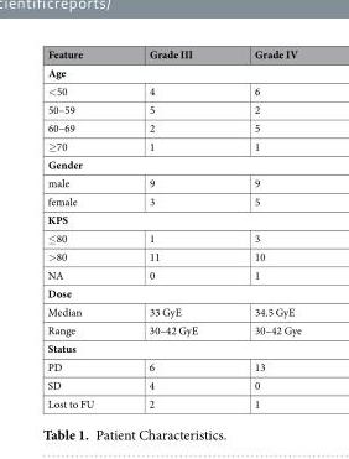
<table><thead><tr><td>Feature</td><td>Grade III</td><td>Grade IV</td></tr></thead><tbody><tr><td colspan="3">Age</td></tr><tr><td>&lt;50</td><td>4</td><td>6</td></tr><tr><td>50–59</td><td>5</td><td>2</td></tr><tr><td>60–69</td><td>2</td><td>5</td></tr><tr><td>≥70</td><td>1</td><td>1</td></tr><tr><td colspan="3">Gender</td></tr><tr><td>male</td><td>9</td><td>9</td></tr><tr><td>female</td><td>3</td><td>5</td></tr><tr><td colspan="3">KPS</td></tr><tr><td>≤80</td><td>1</td><td>3</td></tr><tr><td>&gt;80</td><td>11</td><td>10</td></tr><tr><td>NA</td><td>0</td><td>1</td></tr><tr><td colspan="3">Dose</td></tr><tr><td>Median</td><td>33 GyE</td><td>34.5 GyE</td></tr><tr><td>Range</td><td>30–42 GyE</td><td>30–42 Gye</td></tr><tr><td colspan="3">Status</td></tr><tr><td>PD</td><td>6</td><td>13</td></tr><tr><td>SD</td><td>4</td><td>0</td></tr><tr><td>Lost to FU</td><td>2</td><td>1</td></tr></tbody></table>